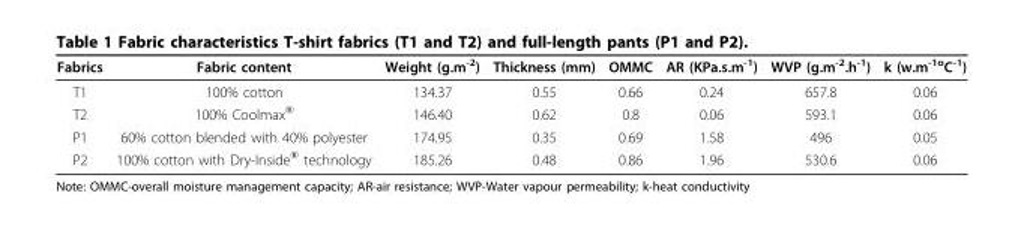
<table><thead><tr><td>Fabrics</td><td>Fabric content</td><td>Weight (g.m<sup>-2</sup>)</td><td>Thickness (mm)</td><td>OMMC</td><td>AR (KPa.s.m<sup>-1</sup>)</td><td>WVP (g.m<sup>-2</sup>.h<sup>-1</sup>)</td><td>k (w.m<sup>-1o</sup>C<sup>-1</sup>)</td></tr></thead><tbody><tr><td>T1</td><td>100% cotton</td><td>134.37</td><td>0.55</td><td>0.66</td><td>0.24</td><td>657.8</td><td>0.06</td></tr><tr><td>T2</td><td>100% Coolmax<sup>®</sup></td><td>146.40</td><td>0.62</td><td>0.8</td><td>0.06</td><td>593.1</td><td>0.06</td></tr><tr><td>P1</td><td>60% cotton blended with 40% polyester</td><td>174.95</td><td>0.35</td><td>0.69</td><td>1.58</td><td>496</td><td>0.05</td></tr><tr><td>P2</td><td>100% cotton with Dry-Inside<sup>®</sup> technology</td><td>185.26</td><td>0.48</td><td>0.86</td><td>1.96</td><td>530.6</td><td>0.06</td></tr></tbody></table>